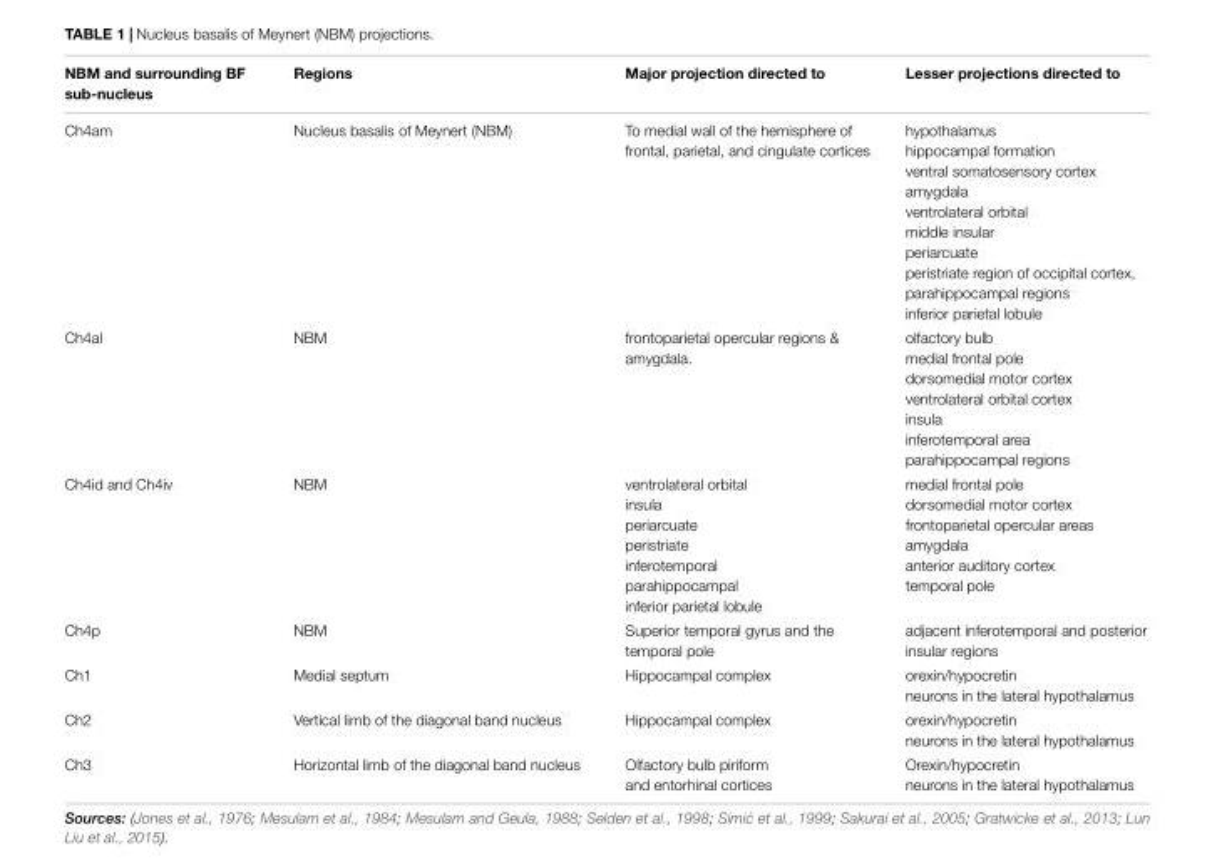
<table><thead><tr><td>NBM and surrounding BF sub-nucleus</td><td>Regions</td><td>Major projection directed to</td><td>Lesser projections directed to</td></tr></thead><tbody><tr><td>Ch4am</td><td>Nucleus basalis of Meynert (NBM)</td><td>To medial wall of the hemisphere of frontal, parietal, and cingulate cortices</td><td>hypothalamus hippocampal formation ventral somatosensory cortex amygdala ventrolateral orbital middle insular periarcuate peristriate region of occipital cortex, parahippocampal regions inferior parietal lobule</td></tr><tr><td>Ch4al</td><td>NBM</td><td>frontoparietal opercular regions &amp; amygdala.</td><td>olfactory bulb medial frontal pole dorsomedial motor cortex ventrolateral orbital cortex insula inferotemporal area parahippocampal regions</td></tr><tr><td>Ch4id and Ch4iv</td><td>NBM</td><td>ventrolateral orbital insula periarcuate peristriate inferotemporal parahippocampal inferior parietal lobule</td><td>medial frontal pole dorsomedial motor cortex frontoparietal opercular areas amygdala anterior auditory cortex temporal pole</td></tr><tr><td>Ch4p</td><td>NBM</td><td>Superior temporal gyrus and the temporal pole</td><td>adjacent inferotemporal and posterior insular regions</td></tr><tr><td>Ch1</td><td>Medial septum</td><td>Hippocampal complex</td><td>orexin/hypocretin neurons in the lateral hypothalamus</td></tr><tr><td>Ch2</td><td>Vertical limb of the diagonal band nucleus</td><td>Hippocampal complex</td><td>orexin/hypocretin neurons in the lateral hypothalamus</td></tr><tr><td>Ch3</td><td>Horizontal limb of the diagonal band nucleus</td><td>Olfactory bulb piriform and entorhinal cortices</td><td>Orexin/hypocretin neurons in the lateral hypothalamus</td></tr></tbody></table>